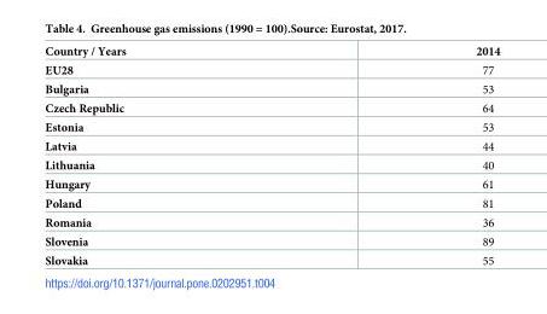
<table><thead><tr><td>Country / Years</td><td>2014</td></tr></thead><tbody><tr><td>EU28</td><td>77</td></tr><tr><td>Bulgaria</td><td>53</td></tr><tr><td>Czech Republic</td><td>64</td></tr><tr><td>Estonia</td><td>53</td></tr><tr><td>Latvia</td><td>44</td></tr><tr><td>Lithuania</td><td>40</td></tr><tr><td>Hungary</td><td>61</td></tr><tr><td>Poland</td><td>81</td></tr><tr><td>Romania</td><td>36</td></tr><tr><td>Slovenia</td><td>89</td></tr><tr><td>Slovakia</td><td>55</td></tr></tbody></table>